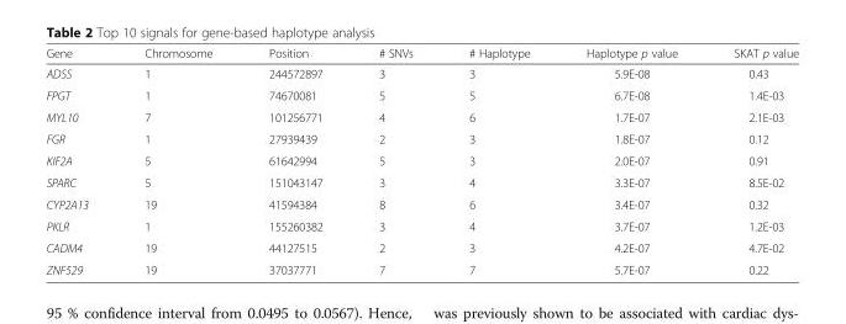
<table><thead><tr><td>Gene</td><td>Chromosome</td><td>Position</td><td># SNVs</td><td># Haplotype</td><td>Haplotype p value</td><td>SKAT p value</td></tr></thead><tbody><tr><td>ADSS</td><td>1</td><td>244572897</td><td>3</td><td>3</td><td>5.9E-08</td><td>0.43</td></tr><tr><td>FPGT</td><td>1</td><td>74670081</td><td>5</td><td>5</td><td>6.7E-08</td><td>1.4E-03</td></tr><tr><td>MYL10</td><td>7</td><td>101256771</td><td>4</td><td>6</td><td>1.7E-07</td><td>2.1E-03</td></tr><tr><td>FGR</td><td>1</td><td>27939439</td><td>2</td><td>3</td><td>1.8E-07</td><td>0.12</td></tr><tr><td>KIF2A</td><td>5</td><td>61642994</td><td>5</td><td>3</td><td>2.0E-07</td><td>0.91</td></tr><tr><td>SPARC</td><td>5</td><td>151043147</td><td>3</td><td>4</td><td>3.3E-07</td><td>8.5E-02</td></tr><tr><td>CYP2A13</td><td>19</td><td>41594384</td><td>8</td><td>6</td><td>3.4E-07</td><td>0.32</td></tr><tr><td>PKLR</td><td>1</td><td>155260382</td><td>3</td><td>4</td><td>3.7E-07</td><td>1.2E-03</td></tr><tr><td>CADM4</td><td>19</td><td>44127515</td><td>2</td><td>3</td><td>4.2E-07</td><td>4.7E-02</td></tr><tr><td>ZNF529</td><td>19</td><td>37037771</td><td>7</td><td>7</td><td>5.7E-07</td><td>0.22</td></tr></tbody></table>